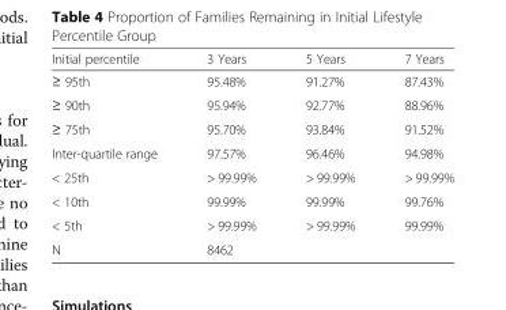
<table><thead><tr><td>Initial percentile</td><td>3 Years</td><td>5 Years</td><td>7 Years</td></tr></thead><tbody><tr><td>≥ 95th</td><td>95.48%</td><td>91.27%</td><td>87.43%</td></tr><tr><td>≥ 90th</td><td>95.94%</td><td>92.77%</td><td>88.96%</td></tr><tr><td>≥ 75th</td><td>95.70%</td><td>93.84%</td><td>91.52%</td></tr><tr><td>Inter-quartile range</td><td>97.57%</td><td>96.46%</td><td>94.98%</td></tr><tr><td>&lt; 25th</td><td>&gt; 99.99%</td><td>&gt; 99.99%</td><td>&gt; 99.99%</td></tr><tr><td>&lt; 10th</td><td>99.99%</td><td>99.99%</td><td>99.76%</td></tr><tr><td>&lt; 5th</td><td>&gt; 99.99%</td><td>&gt; 99.99%</td><td>99.99%</td></tr><tr><td>N</td><td colspan="3">8462</td></tr></tbody></table>